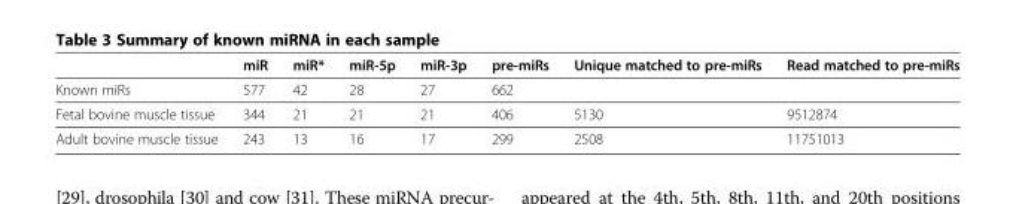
<table><thead><tr><td></td><td>miR</td><td>miR*</td><td>miR-5p</td><td>miR-3p</td><td>pre-miRs</td><td>Unique matched to pre-miRs</td><td>Read matched to pre-miRs</td></tr></thead><tbody><tr><td>Known miRs</td><td>577</td><td>42</td><td>28</td><td>27</td><td>662</td><td></td><td></td></tr><tr><td>Fetal bovine muscle tissue</td><td>344</td><td>21</td><td>21</td><td>21</td><td>406</td><td>5130</td><td>9512874</td></tr><tr><td>Adult bovine muscle tissue</td><td>243</td><td>13</td><td>16</td><td>17</td><td>299</td><td>2508</td><td>11751013</td></tr></tbody></table>